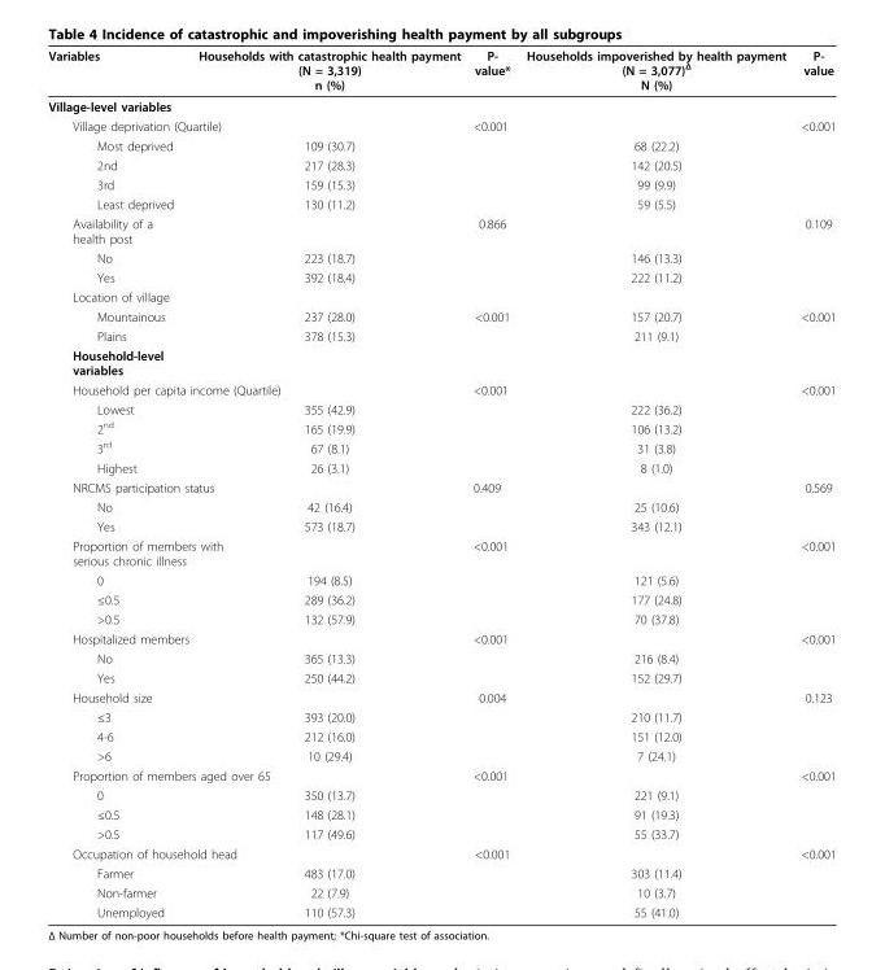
<table><thead><tr><td>Variables</td><td>Households with catastrophic health payment (N = 3,319) n (%)</td><td>P- value*</td><td>Households impoverished by health payment (N = 3,077)<sup>Δ</sup> N (%)</td><td>P- value</td></tr></thead><tbody><tr><td colspan="5">Village-level variables</td></tr><tr><td colspan="2">Village deprivation (Quartile)</td><td>&lt;0.001</td><td></td><td>&lt;0.001</td></tr><tr><td>Most deprived</td><td>109 (30.7)</td><td></td><td>68 (22.2)</td><td></td></tr><tr><td>2nd</td><td>217 (28.3)</td><td></td><td>142 (20.5)</td><td></td></tr><tr><td>3rd</td><td>159 (15.3)</td><td></td><td>99 (9.9)</td><td></td></tr><tr><td>Least deprived</td><td>130 (11.2)</td><td></td><td>59 (5.5)</td><td></td></tr><tr><td>Availability of a health post</td><td></td><td>0.866</td><td></td><td>0.109</td></tr><tr><td>No</td><td>223 (18.7)</td><td></td><td>146 (13.3)</td><td></td></tr><tr><td>Yes</td><td>392 (18.4)</td><td></td><td>222 (11.2)</td><td></td></tr><tr><td colspan="5">Location of village</td></tr><tr><td>Mountainous</td><td>237 (28.0)</td><td>&lt;0.001</td><td>157 (20.7)</td><td>&lt;0.001</td></tr><tr><td>Plains</td><td>378 (15.3)</td><td></td><td>211 (9.1)</td><td></td></tr><tr><td colspan="5">Household-level variables</td></tr><tr><td colspan="2">Household per capita income (Quartile)</td><td>&lt;0.001</td><td></td><td>&lt;0.001</td></tr><tr><td>Lowest</td><td>355 (42.9)</td><td></td><td>222 (36.2)</td><td></td></tr><tr><td>2<sup>nd</sup></td><td>165 (19.9)</td><td></td><td>106 (13.2)</td><td></td></tr><tr><td>3<sup>rd</sup></td><td>67 (8.1)</td><td></td><td>31 (3.8)</td><td></td></tr><tr><td>Highest</td><td>26 (3.1)</td><td></td><td>8 (1.0)</td><td></td></tr><tr><td colspan="2">NRCMS participation status</td><td>0.409</td><td></td><td>0.569</td></tr><tr><td>No</td><td>42 (16.4)</td><td></td><td>25 (10.6)</td><td></td></tr><tr><td>Yes</td><td>573 (18.7)</td><td></td><td>343 (12.1)</td><td></td></tr><tr><td colspan="2">Proportion of members with serious chronic illness</td><td>&lt;0.001</td><td></td><td>&lt;0.001</td></tr><tr><td>0</td><td>194 (8.5)</td><td></td><td>121 (5.6)</td><td></td></tr><tr><td>≤0.5</td><td>289 (36.2)</td><td></td><td>177 (24.8)</td><td></td></tr><tr><td>&gt;0.5</td><td>132 (57.9)</td><td></td><td>70 (37.8)</td><td></td></tr><tr><td colspan="2">Hospitalized members</td><td>&lt;0.001</td><td></td><td>&lt;0.001</td></tr><tr><td>No</td><td>365 (13.3)</td><td></td><td>216 (8.4)</td><td></td></tr><tr><td>Yes</td><td>250 (44.2)</td><td></td><td>152 (29.7)</td><td></td></tr><tr><td>Household size</td><td></td><td>0.004</td><td></td><td>0.123</td></tr><tr><td>≤3</td><td>393 (20.0)</td><td></td><td>210 (11.7)</td><td></td></tr><tr><td>4-6</td><td>212 (16.0)</td><td></td><td>151 (12.0)</td><td></td></tr><tr><td>&gt;6</td><td>10 (29.4)</td><td></td><td>7 (24.1)</td><td></td></tr><tr><td colspan="2">Proportion of members aged over 65</td><td>&lt;0.001</td><td></td><td>&lt;0.001</td></tr><tr><td>0</td><td>350 (13.7)</td><td></td><td>221 (9.1)</td><td></td></tr><tr><td>≤0.5</td><td>148 (28.1)</td><td></td><td>91 (19.3)</td><td></td></tr><tr><td>&gt;0.5</td><td>117 (49.6)</td><td></td><td>55 (33.7)</td><td></td></tr><tr><td colspan="2">Occupation of household head</td><td>&lt;0.001</td><td></td><td>&lt;0.001</td></tr><tr><td>Farmer</td><td>483 (17.0)</td><td></td><td>303 (11.4)</td><td></td></tr><tr><td>Non-farmer</td><td>22 (7.9)</td><td></td><td>10 (3.7)</td><td></td></tr><tr><td>Unemployed</td><td>110 (57.3)</td><td></td><td>55 (41.0)</td><td></td></tr></tbody></table>